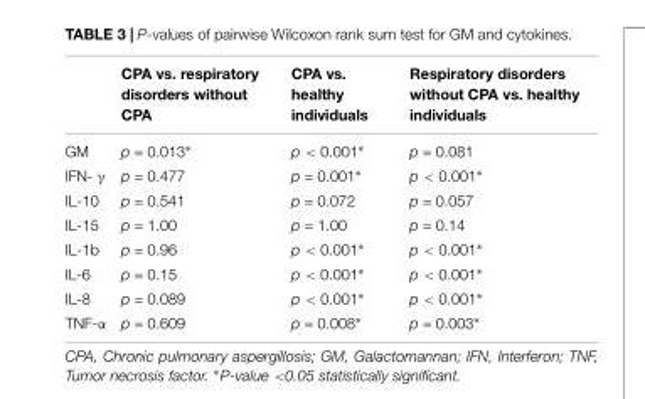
<table><thead><tr><td></td><td>CPA vs. respiratory disorders without CPA</td><td>CPA vs. healthy individuals</td><td>Respiratory disorders without CPA vs. healthy individuals</td></tr></thead><tbody><tr><td>GM</td><td>p = 0.013∗</td><td>p &lt; 0.001∗</td><td>p = 0.081</td></tr><tr><td>IFN- γ</td><td>p = 0.477</td><td>p = 0.001∗</td><td>p &lt; 0.001∗</td></tr><tr><td>IL-10</td><td>p = 0.541</td><td>p = 0.072</td><td>p = 0.057</td></tr><tr><td>IL-15</td><td>p = 1.00</td><td>p = 1.00</td><td>p = 0.14</td></tr><tr><td>IL-1b</td><td>p = 0.96</td><td>p &lt; 0.001∗</td><td>p &lt; 0.001∗</td></tr><tr><td>IL-6</td><td>p = 0.15</td><td>p &lt; 0.001∗</td><td>p &lt; 0.001∗</td></tr><tr><td>IL-8</td><td>p = 0.089</td><td>p &lt; 0.001∗</td><td>p &lt; 0.001∗</td></tr><tr><td>TNF-α</td><td>p = 0.609</td><td>p = 0.008∗</td><td>p = 0.003∗</td></tr></tbody></table>